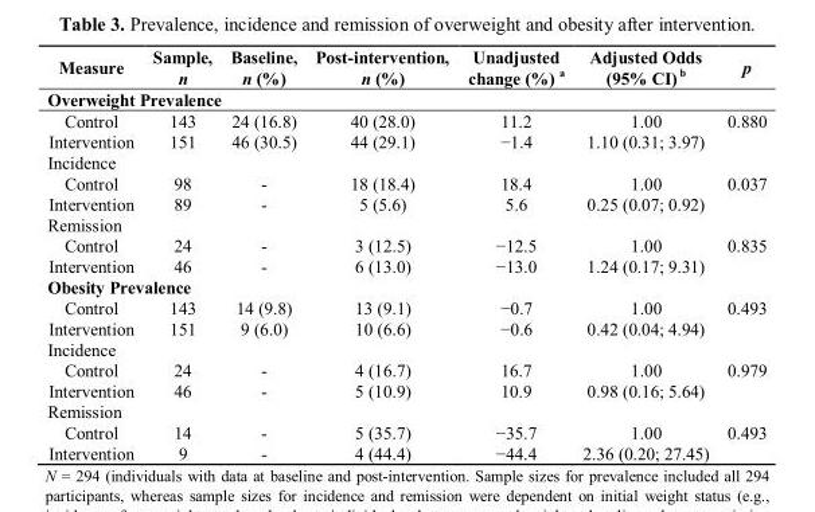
<table><thead><tr><td>Measure</td><td>Sample, n</td><td>Baseline, n (%)</td><td>Post-intervention, n (%)</td><td>Unadjusted change (%) <sup>a</sup></td><td>Adjusted Odds (95% CI) <sup>b</sup></td><td>p</td></tr></thead><tbody><tr><td colspan="7">Overweight Prevalence</td></tr><tr><td>Control</td><td>143</td><td>24 (16.8)</td><td>40 (28.0)</td><td>11.2</td><td>1.00</td><td>0.880</td></tr><tr><td>Intervention</td><td>151</td><td>46 (30.5)</td><td>44 (29.1)</td><td>−1.4</td><td>1.10 (0.31; 3.97)</td><td></td></tr><tr><td colspan="7">Incidence</td></tr><tr><td>Control</td><td>98</td><td>-</td><td>18 (18.4)</td><td>18.4</td><td>1.00</td><td>0.037</td></tr><tr><td>Intervention</td><td>89</td><td>-</td><td>5 (5.6)</td><td>5.6</td><td>0.25 (0.07; 0.92)</td><td></td></tr><tr><td colspan="7">Remission</td></tr><tr><td>Control</td><td>24</td><td>-</td><td>3 (12.5)</td><td>−12.5</td><td>1.00</td><td>0.835</td></tr><tr><td>Intervention</td><td>46</td><td>-</td><td>6 (13.0)</td><td>−13.0</td><td>1.24 (0.17; 9.31)</td><td></td></tr><tr><td colspan="7">Obesity Prevalence</td></tr><tr><td>Control</td><td>143</td><td>14 (9.8)</td><td>13 (9.1)</td><td>−0.7</td><td>1.00</td><td>0.493</td></tr><tr><td>Intervention</td><td>151</td><td>9 (6.0)</td><td>10 (6.6)</td><td>−0.6</td><td>0.42 (0.04; 4.94)</td><td></td></tr><tr><td colspan="7">Incidence</td></tr><tr><td>Control</td><td>24</td><td>-</td><td>4 (16.7)</td><td>16.7</td><td>1.00</td><td>0.979</td></tr><tr><td>Intervention</td><td>46</td><td>-</td><td>5 (10.9)</td><td>10.9</td><td>0.98 (0.16; 5.64)</td><td></td></tr><tr><td colspan="7">Remission</td></tr><tr><td>Control</td><td>14</td><td>-</td><td>5 (35.7)</td><td>−35.7</td><td>1.00</td><td>0.493</td></tr><tr><td>Intervention</td><td>9</td><td>-</td><td>4 (44.4)</td><td>−44.4</td><td>2.36 (0.20; 27.45)</td><td></td></tr></tbody></table>